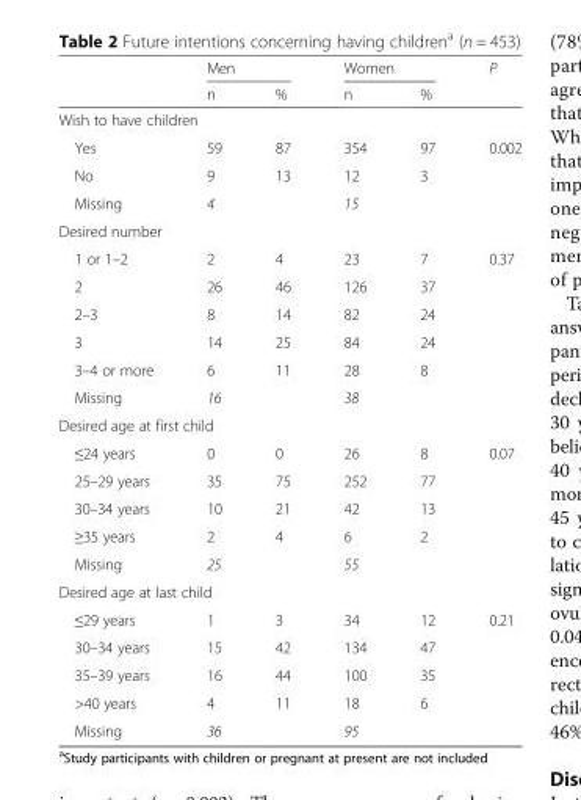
<table><thead><tr><td rowspan="2"></td><td colspan="2">Men</td><td colspan="2">Women</td><td rowspan="2">P</td></tr><tr><td>n</td><td>%</td><td>n</td><td>%</td></tr></thead><tbody><tr><td colspan="6">Wish to have children</td></tr><tr><td>Yes</td><td>59</td><td>87</td><td>354</td><td>97</td><td rowspan="3">0.002</td></tr><tr><td>No</td><td>9</td><td>13</td><td>12</td><td>3</td></tr><tr><td>Missing</td><td>4</td><td></td><td>15</td><td></td></tr><tr><td colspan="6">Desired number</td></tr><tr><td>1 or 1–2</td><td>2</td><td>4</td><td>23</td><td>7</td><td rowspan="6">0.37</td></tr><tr><td>2</td><td>26</td><td>46</td><td>126</td><td>37</td></tr><tr><td>2–3</td><td>8</td><td>14</td><td>82</td><td>24</td></tr><tr><td>3</td><td>14</td><td>25</td><td>84</td><td>24</td></tr><tr><td>3–4 or more</td><td>6</td><td>11</td><td>28</td><td>8</td></tr><tr><td>Missing</td><td>16</td><td></td><td>38</td><td></td></tr><tr><td colspan="6">Desired age at first child</td></tr><tr><td>≤24 years</td><td>0</td><td>0</td><td>26</td><td>8</td><td rowspan="5">0.07</td></tr><tr><td>25–29 years</td><td>35</td><td>75</td><td>252</td><td>77</td></tr><tr><td>30–34 years</td><td>10</td><td>21</td><td>42</td><td>13</td></tr><tr><td>≥35 years</td><td>2</td><td>4</td><td>6</td><td>2</td></tr><tr><td>Missing</td><td>25</td><td></td><td>55</td><td></td></tr><tr><td colspan="6">Desired age at last child</td></tr><tr><td>≤29 years</td><td>1</td><td>3</td><td>34</td><td>12</td><td rowspan="5">0.21</td></tr><tr><td>30–34 years</td><td>15</td><td>42</td><td>134</td><td>47</td></tr><tr><td>35–39 years</td><td>16</td><td>44</td><td>100</td><td>35</td></tr><tr><td>&gt;40 years</td><td>4</td><td>11</td><td>18</td><td>6</td></tr><tr><td>Missing</td><td>36</td><td></td><td>95</td><td></td></tr></tbody></table>